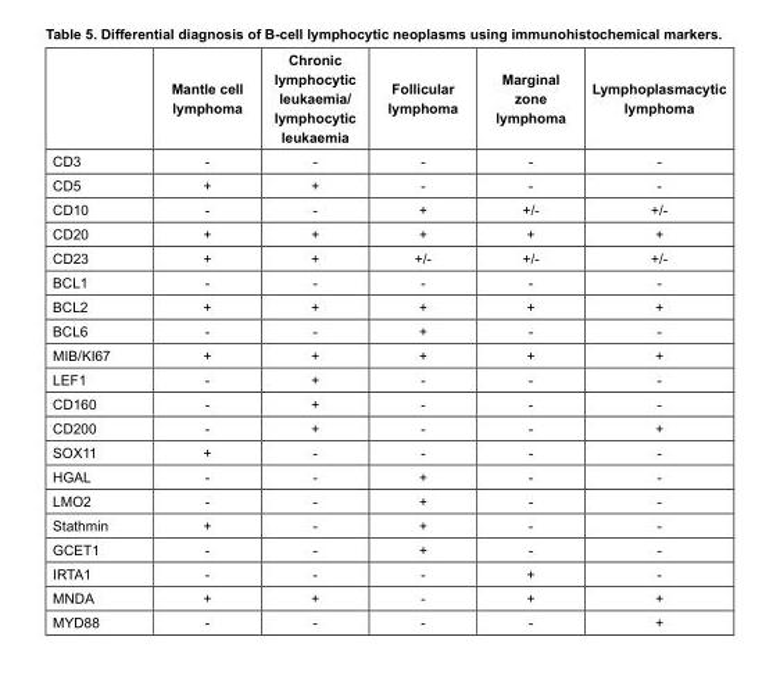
<table><thead><tr><td></td><td>Mantle cell lymphoma</td><td>Chronic lymphocytic leukaemia/ lymphocytic leukaemia</td><td>Follicular lymphoma</td><td>Marginal zone lymphoma</td><td>Lymphoplasmacytic lymphoma</td></tr></thead><tbody><tr><td>CD3</td><td>-</td><td>-</td><td>-</td><td>-</td><td>-</td></tr><tr><td>CD5</td><td>+</td><td>+</td><td>-</td><td>-</td><td>-</td></tr><tr><td>CD10</td><td>-</td><td>-</td><td>+</td><td>+/-</td><td>+/-</td></tr><tr><td>CD20</td><td>+</td><td>+</td><td>+</td><td>+</td><td>+</td></tr><tr><td>CD23</td><td>+</td><td>+</td><td>+/-</td><td>+/-</td><td>+/-</td></tr><tr><td>BCL1</td><td>-</td><td>-</td><td>-</td><td>-</td><td>-</td></tr><tr><td>BCL2</td><td>+</td><td>+</td><td>+</td><td>+</td><td>+</td></tr><tr><td>BCL6</td><td>-</td><td>-</td><td>+</td><td>-</td><td>-</td></tr><tr><td>MIB/KI67</td><td>+</td><td>+</td><td>+</td><td>+</td><td>+</td></tr><tr><td>LEF1</td><td>-</td><td>+</td><td>-</td><td>-</td><td>-</td></tr><tr><td>CD160</td><td>-</td><td>+</td><td>-</td><td>-</td><td>-</td></tr><tr><td>CD200</td><td>-</td><td>+</td><td>-</td><td>-</td><td>+</td></tr><tr><td>SOX11</td><td>+</td><td>-</td><td>-</td><td>-</td><td>-</td></tr><tr><td>HGAL</td><td>-</td><td>-</td><td>+</td><td>-</td><td>-</td></tr><tr><td>LMO2</td><td>-</td><td>-</td><td>+</td><td>-</td><td>-</td></tr><tr><td>Stathmin</td><td>+</td><td>-</td><td>+</td><td>-</td><td>-</td></tr><tr><td>GCET1</td><td>-</td><td>-</td><td>+</td><td>-</td><td>-</td></tr><tr><td>IRTA1</td><td>-</td><td>-</td><td>-</td><td>+</td><td>-</td></tr><tr><td>MNDA</td><td>+</td><td>+</td><td>-</td><td>+</td><td>+</td></tr><tr><td>MYD88</td><td>-</td><td>-</td><td>-</td><td>-</td><td>+</td></tr></tbody></table>